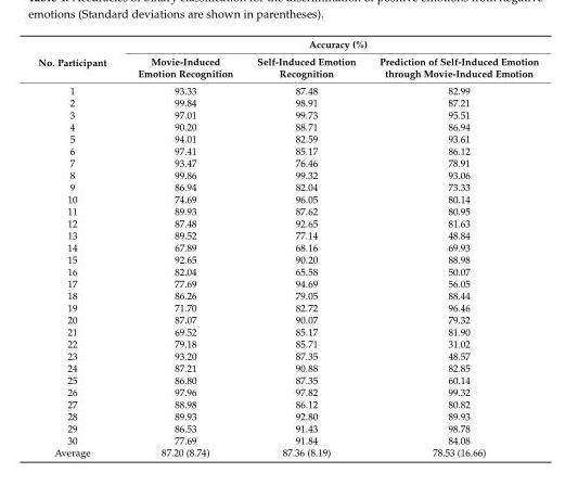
<table><thead><tr><td rowspan="2">No. Participant</td><td colspan="3">Accuracy (%)</td></tr><tr><td>Movie-Induced Emotion Recognition</td><td>Self-Induced Emotion Recognition</td><td>Prediction of Self-Induced Emotion through Movie-Induced Emotion</td></tr></thead><tbody><tr><td>1</td><td>93.33</td><td>87.48</td><td>82.99</td></tr><tr><td>2</td><td>99.84</td><td>98.91</td><td>87.21</td></tr><tr><td>3</td><td>97.01</td><td>99.73</td><td>95.51</td></tr><tr><td>4</td><td>90.20</td><td>88.71</td><td>86.94</td></tr><tr><td>5</td><td>94.01</td><td>82.59</td><td>93.61</td></tr><tr><td>6</td><td>97.41</td><td>85.17</td><td>86.12</td></tr><tr><td>7</td><td>93.47</td><td>76.46</td><td>78.91</td></tr><tr><td>8</td><td>99.86</td><td>99.32</td><td>93.06</td></tr><tr><td>9</td><td>86.94</td><td>82.04</td><td>73.33</td></tr><tr><td>10</td><td>74.69</td><td>96.05</td><td>80.14</td></tr><tr><td>11</td><td>89.93</td><td>87.62</td><td>80.95</td></tr><tr><td>12</td><td>87.48</td><td>92.65</td><td>81.63</td></tr><tr><td>13</td><td>89.52</td><td>77.14</td><td>48.84</td></tr><tr><td>14</td><td>67.89</td><td>68.16</td><td>69.93</td></tr><tr><td>15</td><td>92.65</td><td>90.20</td><td>88.98</td></tr><tr><td>16</td><td>82.04</td><td>65.58</td><td>50.07</td></tr><tr><td>17</td><td>77.69</td><td>94.69</td><td>56.05</td></tr><tr><td>18</td><td>86.26</td><td>79.05</td><td>88.44</td></tr><tr><td>19</td><td>71.70</td><td>82.72</td><td>96.46</td></tr><tr><td>20</td><td>87.07</td><td>90.07</td><td>79.32</td></tr><tr><td>21</td><td>69.52</td><td>85.17</td><td>81.90</td></tr><tr><td>22</td><td>79.18</td><td>85.71</td><td>31.02</td></tr><tr><td>23</td><td>93.20</td><td>87.35</td><td>48.57</td></tr><tr><td>24</td><td>87.21</td><td>90.88</td><td>82.85</td></tr><tr><td>25</td><td>86.80</td><td>87.35</td><td>60.14</td></tr><tr><td>26</td><td>97.96</td><td>97.82</td><td>99.32</td></tr><tr><td>27</td><td>88.98</td><td>86.12</td><td>80.82</td></tr><tr><td>28</td><td>89.93</td><td>92.80</td><td>89.93</td></tr><tr><td>29</td><td>86.53</td><td>91.43</td><td>98.78</td></tr><tr><td>30</td><td>77.69</td><td>91.84</td><td>84.08</td></tr><tr><td>Average</td><td>87.20 (8.74)</td><td>87.36 (8.19)</td><td>78.53 (16.66)</td></tr></tbody></table>